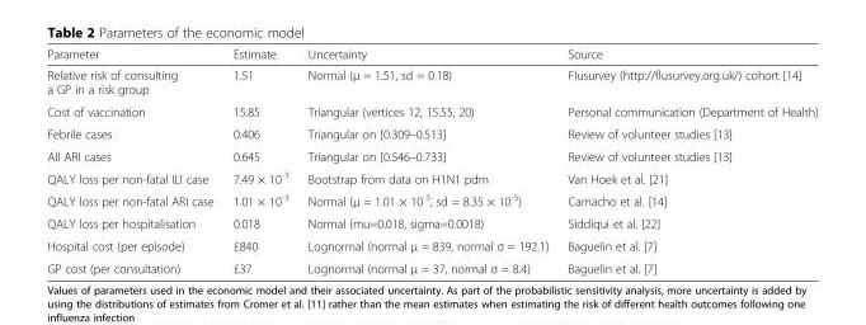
<table><thead><tr><td>Parameter</td><td>Estimate</td><td>Uncertainty</td><td>Source</td></tr></thead><tbody><tr><td>Relative risk of consulting a GP in a risk group</td><td>1.51</td><td>Normal (μ = 1.51, sd = 0.18)</td><td>Flusurvey (http://flusurvey.org.uk/) cohort [14]</td></tr><tr><td>Cost of vaccination</td><td>15.85</td><td>Triangular (vertices 12, 15.55, 20)</td><td>Personal communication (Department of Health)</td></tr><tr><td>Febrile cases</td><td>0.406</td><td>Triangular on [0.309–0.513]</td><td>Review of volunteer studies [13]</td></tr><tr><td>All ARI cases</td><td>0.645</td><td>Triangular on [0.546–0.733]</td><td>Review of volunteer studies [13]</td></tr><tr><td>QALY loss per non-fatal ILI case</td><td>7.49 × 10<sup>-3</sup></td><td>Bootstrap from data on H1N1 pdm</td><td>Van Hoek et al. [21]</td></tr><tr><td>QALY loss per non-fatal ARI case</td><td>1.01 × 10<sup>-3</sup></td><td>Normal (μ = 1.01 × 10<sup>-3</sup>, sd = 8.35 × 10<sup>-5</sup>)</td><td>Camacho et al. [14]</td></tr><tr><td>QALY loss per hospitalisation</td><td>0.018</td><td>Normal (mu=0.018, sigma=0.0018)</td><td>Siddiqui et al. [22]</td></tr><tr><td>Hospital cost (per episode)</td><td>£840</td><td>Lognormal (normal μ = 839, normal σ = 192.1)</td><td>Baguelin et al. [7]</td></tr><tr><td>GP cost (per consultation)</td><td>£37</td><td>Lognormal (normal μ = 37, normal σ = 8.4)</td><td>Baguelin et al. [7]</td></tr></tbody></table>